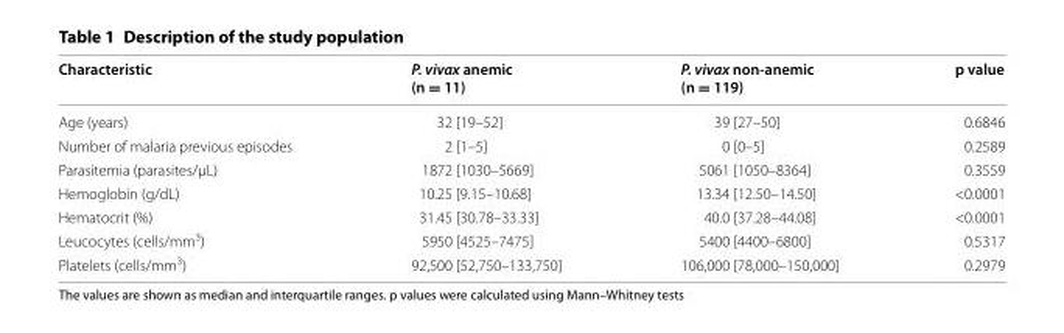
<table><thead><tr><td>Characteristic</td><td>P. vivax anemic (n = 11)</td><td>P. vivax non‑anemic (n = 119)</td><td>p value</td></tr></thead><tbody><tr><td>Age (years)</td><td>32 [19–52]</td><td>39 [27–50]</td><td>0.6846</td></tr><tr><td>Number of malaria previous episodes</td><td>2 [1–5]</td><td>0 [0–5]</td><td>0.2589</td></tr><tr><td>Parasitemia (parasites/µL)</td><td>1872 [1030–5669]</td><td>5061 [1050–8364]</td><td>0.3559</td></tr><tr><td>Hemoglobin (g/dL)</td><td>10.25 [9.15–10.68]</td><td>13.34 [12.50–14.50]</td><td>&lt;0.0001</td></tr><tr><td>Hematocrit (%)</td><td>31.45 [30.78–33.33]</td><td>40.0 [37.28–44.08]</td><td>&lt;0.0001</td></tr><tr><td>Leucocytes (cells/mm<sup>3</sup>)</td><td>5950 [4525–7475]</td><td>5400 [4400–6800]</td><td>0.5317</td></tr><tr><td>Platelets (cells/mm<sup>3</sup>)</td><td>92,500 [52,750–133,750]</td><td>106,000 [78,000–150,000]</td><td>0.2979</td></tr></tbody></table>